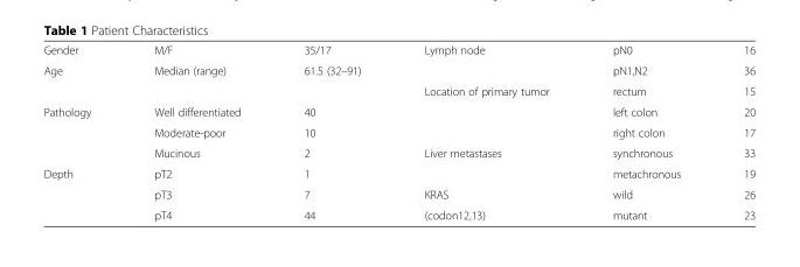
<table><tbody><tr><td>Gender</td><td>M/F</td><td>35/17</td><td rowspan="2">Lymph node</td><td>pN0</td><td>16</td></tr><tr><td rowspan="2">Age</td><td rowspan="2">Median (range)</td><td rowspan="2">61.5 (32–91)</td><td>pN1,N2</td><td>36</td></tr><tr><td rowspan="3">Location of primary tumor</td><td>rectum</td><td>15</td></tr><tr><td rowspan="3">Pathology</td><td>Well differentiated</td><td>40</td><td>left colon</td><td>20</td></tr><tr><td>Moderate-poor</td><td>10</td><td>right colon</td><td>17</td></tr><tr><td>Mucinous</td><td>2</td><td rowspan="2">Liver metastases</td><td>synchronous</td><td>33</td></tr><tr><td rowspan="3">Depth</td><td>pT2</td><td>1</td><td>metachronous</td><td>19</td></tr><tr><td>pT3</td><td>7</td><td>KRAS</td><td>wild</td><td>26</td></tr><tr><td>pT4</td><td>44</td><td>(codon12,13)</td><td>mutant</td><td>23</td></tr></tbody></table>